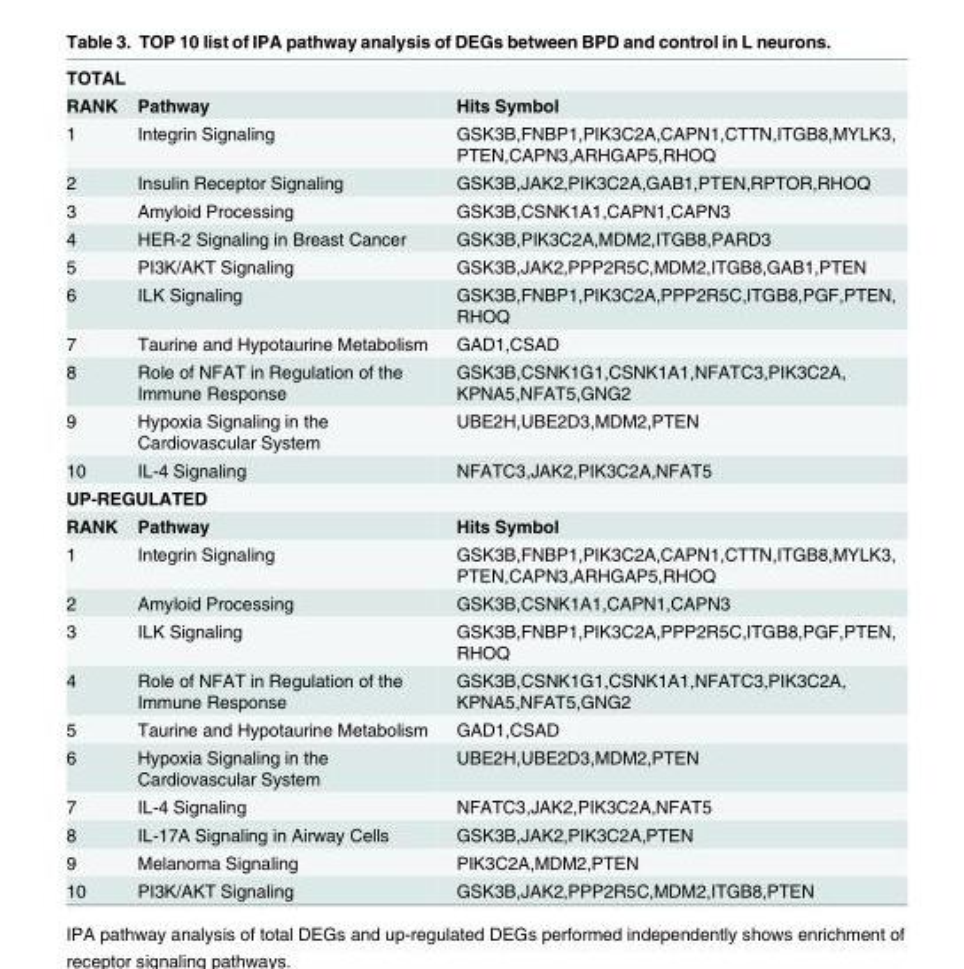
<table><tbody><tr><td colspan="3">TOTAL</td></tr><tr><td>RANK</td><td>Pathway</td><td>Hits Symbol</td></tr><tr><td>1</td><td>Integrin Signaling</td><td>GSK3B,FNBP1,PIK3C2A,CAPN1,CTTN,ITGB8,MYLK3, PTEN,CAPN3,ARHGAP5,RHOQ</td></tr><tr><td>2</td><td>Insulin Receptor Signaling</td><td>GSK3B,JAK2,PIK3C2A,GAB1,PTEN,RPTOR,RHOQ</td></tr><tr><td>3</td><td>Amyloid Processing</td><td>GSK3B,CSNK1A1,CAPN1,CAPN3</td></tr><tr><td>4</td><td>HER-2 Signaling in Breast Cancer</td><td>GSK3B,PIK3C2A,MDM2,ITGB8,PARD3</td></tr><tr><td>5</td><td>PI3K/AKT Signaling</td><td>GSK3B,JAK2,PPP2R5C,MDM2,ITGB8,GAB1,PTEN</td></tr><tr><td>6</td><td>ILK Signaling</td><td>GSK3B,FNBP1,PIK3C2A,PPP2R5C,ITGB8,PGF,PTEN, RHOQ</td></tr><tr><td>7</td><td>Taurine and Hypotaurine Metabolism</td><td>GAD1,CSAD</td></tr><tr><td>8</td><td>Role of NFAT in Regulation of the Immune Response</td><td>GSK3B,CSNK1G1,CSNK1A1,NFATC3,PIK3C2A, KPNA5,NFAT5,GNG2</td></tr><tr><td>9</td><td>Hypoxia Signaling in the Cardiovascular System</td><td>UBE2H,UBE2D3,MDM2,PTEN</td></tr><tr><td>10</td><td>IL-4 Signaling</td><td>NFATC3,JAK2,PIK3C2A,NFAT5</td></tr><tr><td colspan="3">UP-REGULATED</td></tr><tr><td>RANK</td><td>Pathway</td><td>Hits Symbol</td></tr><tr><td>1</td><td>Integrin Signaling</td><td>GSK3B,FNBP1,PIK3C2A,CAPN1,CTTN,ITGB8,MYLK3, PTEN,CAPN3,ARHGAP5,RHOQ</td></tr><tr><td>2</td><td>Amyloid Processing</td><td>GSK3B,CSNK1A1,CAPN1,CAPN3</td></tr><tr><td>3</td><td>ILK Signaling</td><td>GSK3B,FNBP1,PIK3C2A,PPP2R5C,ITGB8,PGF,PTEN, RHOQ</td></tr><tr><td>4</td><td>Role of NFAT in Regulation of the Immune Response</td><td>GSK3B,CSNK1G1,CSNK1A1,NFATC3,PIK3C2A, KPNA5,NFAT5,GNG2</td></tr><tr><td>5</td><td>Taurine and Hypotaurine Metabolism</td><td>GAD1,CSAD</td></tr><tr><td>6</td><td>Hypoxia Signaling in the Cardiovascular System</td><td>UBE2H,UBE2D3,MDM2,PTEN</td></tr><tr><td>7</td><td>IL-4 Signaling</td><td>NFATC3,JAK2,PIK3C2A,NFAT5</td></tr><tr><td>8</td><td>IL-17A Signaling in Airway Cells</td><td>GSK3B,JAK2,PIK3C2A,PTEN</td></tr><tr><td>9</td><td>Melanoma Signaling</td><td>PIK3C2A,MDM2,PTEN</td></tr><tr><td>10</td><td>PI3K/AKT Signaling</td><td>GSK3B,JAK2,PPP2R5C,MDM2,ITGB8,PTEN</td></tr></tbody></table>